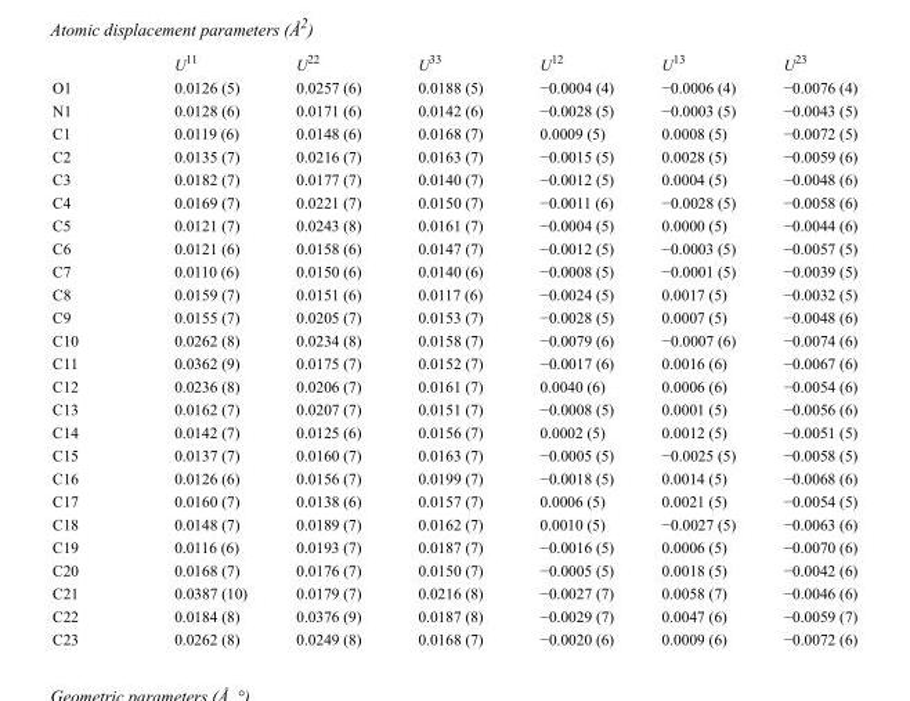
<table><thead><tr><td></td><td>U<sup>11</sup></td><td>U<sup>22</sup></td><td>U<sup>33</sup></td><td>U<sup>12</sup></td><td>U<sup>13</sup></td><td>U<sup>23</sup></td></tr></thead><tbody><tr><td>O1</td><td>0.0126 (5)</td><td>0.0257 (6)</td><td>0.0188 (5)</td><td>−0.0004 (4)</td><td>−0.0006 (4)</td><td>−0.0076 (4)</td></tr><tr><td>N1</td><td>0.0128 (6)</td><td>0.0171 (6)</td><td>0.0142 (6)</td><td>−0.0028 (5)</td><td>−0.0003 (5)</td><td>−0.0043 (5)</td></tr><tr><td>C1</td><td>0.0119 (6)</td><td>0.0148 (6)</td><td>0.0168 (7)</td><td>0.0009 (5)</td><td>0.0008 (5)</td><td>−0.0072 (5)</td></tr><tr><td>C2</td><td>0.0135 (7)</td><td>0.0216 (7)</td><td>0.0163 (7)</td><td>−0.0015 (5)</td><td>0.0028 (5)</td><td>−0.0059 (6)</td></tr><tr><td>C3</td><td>0.0182 (7)</td><td>0.0177 (7)</td><td>0.0140 (7)</td><td>−0.0012 (5)</td><td>0.0004 (5)</td><td>−0.0048 (6)</td></tr><tr><td>C4</td><td>0.0169 (7)</td><td>0.0221 (7)</td><td>0.0150 (7)</td><td>−0.0011 (6)</td><td>−0.0028 (5)</td><td>−0.0058 (6)</td></tr><tr><td>C5</td><td>0.0121 (7)</td><td>0.0243 (8)</td><td>0.0161 (7)</td><td>−0.0004 (5)</td><td>0.0000 (5)</td><td>−0.0044 (6)</td></tr><tr><td>C6</td><td>0.0121 (6)</td><td>0.0158 (6)</td><td>0.0147 (7)</td><td>−0.0012 (5)</td><td>−0.0003 (5)</td><td>−0.0057 (5)</td></tr><tr><td>C7</td><td>0.0110 (6)</td><td>0.0150 (6)</td><td>0.0140 (6)</td><td>−0.0008 (5)</td><td>−0.0001 (5)</td><td>−0.0039 (5)</td></tr><tr><td>C8</td><td>0.0159 (7)</td><td>0.0151 (6)</td><td>0.0117 (6)</td><td>−0.0024 (5)</td><td>0.0017 (5)</td><td>−0.0032 (5)</td></tr><tr><td>C9</td><td>0.0155 (7)</td><td>0.0205 (7)</td><td>0.0153 (7)</td><td>−0.0028 (5)</td><td>0.0007 (5)</td><td>−0.0048 (6)</td></tr><tr><td>C10</td><td>0.0262 (8)</td><td>0.0234 (8)</td><td>0.0158 (7)</td><td>−0.0079 (6)</td><td>−0.0007 (6)</td><td>−0.0074 (6)</td></tr><tr><td>C11</td><td>0.0362 (9)</td><td>0.0175 (7)</td><td>0.0152 (7)</td><td>−0.0017 (6)</td><td>0.0016 (6)</td><td>−0.0067 (6)</td></tr><tr><td>C12</td><td>0.0236 (8)</td><td>0.0206 (7)</td><td>0.0161 (7)</td><td>0.0040 (6)</td><td>0.0006 (6)</td><td>−0.0054 (6)</td></tr><tr><td>C13</td><td>0.0162 (7)</td><td>0.0207 (7)</td><td>0.0151 (7)</td><td>−0.0008 (5)</td><td>0.0001 (5)</td><td>−0.0056 (6)</td></tr><tr><td>C14</td><td>0.0142 (7)</td><td>0.0125 (6)</td><td>0.0156 (7)</td><td>0.0002 (5)</td><td>0.0012 (5)</td><td>−0.0051 (5)</td></tr><tr><td>C15</td><td>0.0137 (7)</td><td>0.0160 (7)</td><td>0.0163 (7)</td><td>−0.0005 (5)</td><td>−0.0025 (5)</td><td>−0.0058 (5)</td></tr><tr><td>C16</td><td>0.0126 (6)</td><td>0.0156 (7)</td><td>0.0199 (7)</td><td>−0.0018 (5)</td><td>0.0014 (5)</td><td>−0.0068 (6)</td></tr><tr><td>C17</td><td>0.0160 (7)</td><td>0.0138 (6)</td><td>0.0157 (7)</td><td>0.0006 (5)</td><td>0.0021 (5)</td><td>−0.0054 (5)</td></tr><tr><td>C18</td><td>0.0148 (7)</td><td>0.0189 (7)</td><td>0.0162 (7)</td><td>0.0010 (5)</td><td>−0.0027 (5)</td><td>−0.0063 (6)</td></tr><tr><td>C19</td><td>0.0116 (6)</td><td>0.0193 (7)</td><td>0.0187 (7)</td><td>−0.0016 (5)</td><td>0.0006 (5)</td><td>−0.0070 (6)</td></tr><tr><td>C20</td><td>0.0168 (7)</td><td>0.0176 (7)</td><td>0.0150 (7)</td><td>−0.0005 (5)</td><td>0.0018 (5)</td><td>−0.0042 (6)</td></tr><tr><td>C21</td><td>0.0387 (10)</td><td>0.0179 (7)</td><td>0.0216 (8)</td><td>−0.0027 (7)</td><td>0.0058 (7)</td><td>−0.0046 (6)</td></tr><tr><td>C22</td><td>0.0184 (8)</td><td>0.0376 (9)</td><td>0.0187 (8)</td><td>−0.0029 (7)</td><td>0.0047 (6)</td><td>−0.0059 (7)</td></tr><tr><td>C23</td><td>0.0262 (8)</td><td>0.0249 (8)</td><td>0.0168 (7)</td><td>−0.0020 (6)</td><td>0.0009 (6)</td><td>−0.0072 (6)</td></tr></tbody></table>